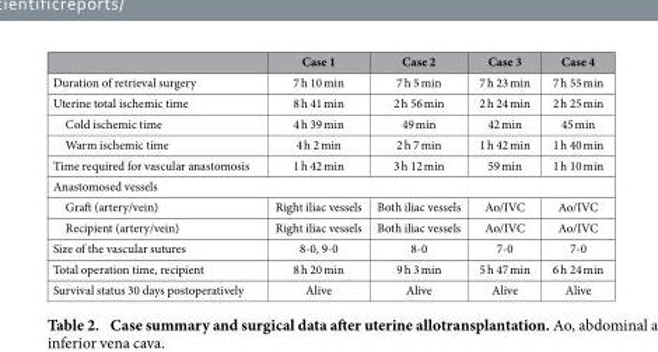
<table><thead><tr><td></td><td>Case 1</td><td>Case 2</td><td>Case 3</td><td>Case 4</td></tr></thead><tbody><tr><td>Duration of retrieval surgery</td><td>7 h 10 min</td><td>7 h 5 min</td><td>7 h 23 min</td><td>7 h 55 min</td></tr><tr><td>Uterine total ischemic time</td><td>8 h 41 min</td><td>2 h 56 min</td><td>2 h 24 min</td><td>2 h 25 min</td></tr><tr><td>Cold ischemic time</td><td>4 h 39 min</td><td>49 min</td><td>42 min</td><td>45 min</td></tr><tr><td>Warm ischemic time</td><td>4 h 2 min</td><td>2 h 7 min</td><td>1 h 42 min</td><td>1 h 40 min</td></tr><tr><td>Time required for vascular anastomosis</td><td>1 h 42 min</td><td>3 h 12 min</td><td>59 min</td><td>1 h 10 min</td></tr><tr><td colspan="5">Anastomosed vessels</td></tr><tr><td>Graft (artery/vein)</td><td>Right iliac vessels</td><td>Both iliac vessels</td><td>Ao/IVC</td><td>Ao/IVC</td></tr><tr><td>Recipient (artery/vein)</td><td>Right iliac vessels</td><td>Both iliac vessels</td><td>Ao/IVC</td><td>Ao/IVC</td></tr><tr><td>Size of the vascular sutures</td><td>8-0, 9-0</td><td>8-0</td><td>7-0</td><td>7-0</td></tr><tr><td>Total operation time, recipient</td><td>8 h 20 min</td><td>9 h 3 min</td><td>5 h 47 min</td><td>6 h 24 min</td></tr><tr><td>Survival status 30 days postoperatively</td><td>Alive</td><td>Alive</td><td>Alive</td><td>Alive</td></tr></tbody></table>